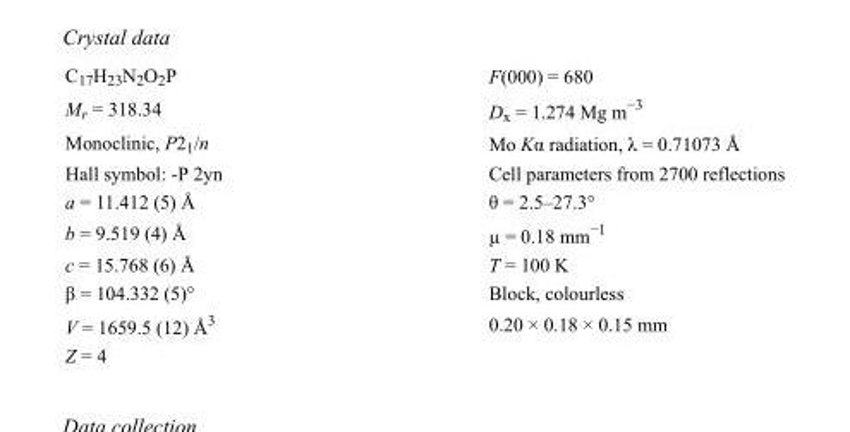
<table><tbody><tr><td>C<sub>17</sub>H<sub>23</sub>N<sub>2</sub>O<sub>2</sub>P</td><td>F(000) = 680</td></tr><tr><td>M<sub>r</sub> = 318.34</td><td>D<sub>x</sub> = 1.274 Mg m<sup>−3</sup></td></tr><tr><td>Monoclinic, P2<sub>1</sub>/n</td><td>Mo Kα radiation, λ = 0.71073 Å</td></tr><tr><td>Hall symbol: -P 2yn</td><td>Cell parameters from 2700 reflections</td></tr><tr><td>a = 11.412 (5) Å</td><td>θ = 2.5–27.3°</td></tr><tr><td>b = 9.519 (4) Å</td><td>µ = 0.18 mm<sup>−1</sup></td></tr><tr><td>c = 15.768 (6) Å</td><td>T = 100 K</td></tr><tr><td>β = 104.332 (5)°</td><td>Block, colourless</td></tr><tr><td>V = 1659.5 (12) Å<sup>3</sup></td><td>0.20 × 0.18 × 0.15 mm</td></tr><tr><td>Z = 4</td><td></td></tr></tbody></table>